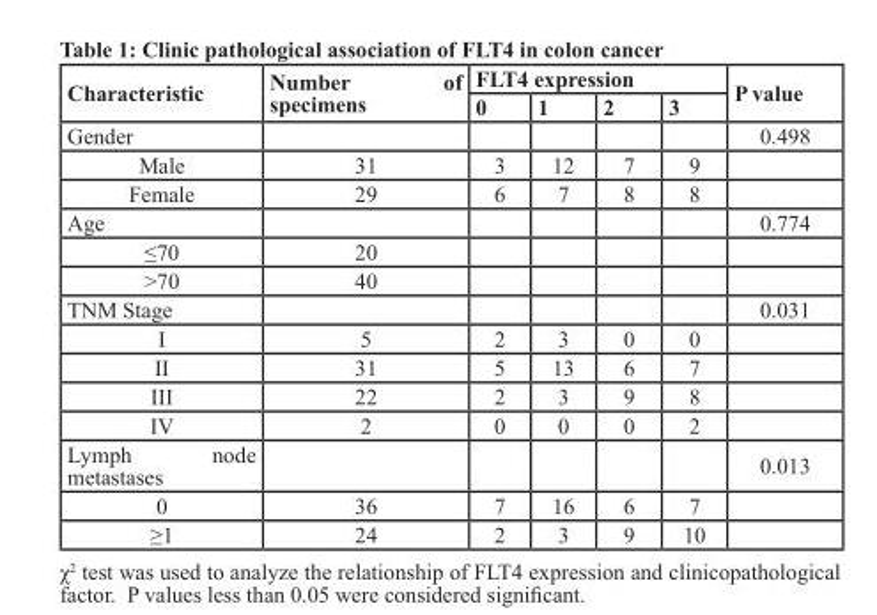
<table><thead><tr><td rowspan="2">Characteristic</td><td rowspan="2">Number of specimens</td><td colspan="4">FLT4 expression</td><td rowspan="2">P value</td></tr><tr><td>0</td><td>1</td><td>2</td><td>3</td></tr></thead><tbody><tr><td>Gender</td><td></td><td></td><td></td><td></td><td></td><td>0.498</td></tr><tr><td>Male</td><td>31</td><td>3</td><td>12</td><td>7</td><td>9</td><td></td></tr><tr><td>Female</td><td>29</td><td>6</td><td>7</td><td>8</td><td>8</td><td></td></tr><tr><td>Age</td><td></td><td></td><td></td><td></td><td></td><td>0.774</td></tr><tr><td>≤70</td><td>20</td><td></td><td></td><td></td><td></td><td></td></tr><tr><td>&gt;70</td><td>40</td><td></td><td></td><td></td><td></td><td></td></tr><tr><td>TNM Stage</td><td></td><td></td><td></td><td></td><td></td><td>0.031</td></tr><tr><td>I</td><td>5</td><td>2</td><td>3</td><td>0</td><td>0</td><td></td></tr><tr><td>II</td><td>31</td><td>5</td><td>13</td><td>6</td><td>7</td><td></td></tr><tr><td>III</td><td>22</td><td>2</td><td>3</td><td>9</td><td>8</td><td></td></tr><tr><td>IV</td><td>2</td><td>0</td><td>0</td><td>0</td><td>2</td><td></td></tr><tr><td>Lymph node metastases</td><td></td><td></td><td></td><td></td><td></td><td>0.013</td></tr><tr><td>0</td><td>36</td><td>7</td><td>16</td><td>6</td><td>7</td><td></td></tr><tr><td>≥1</td><td>24</td><td>2</td><td>3</td><td>9</td><td>10</td><td></td></tr></tbody></table>